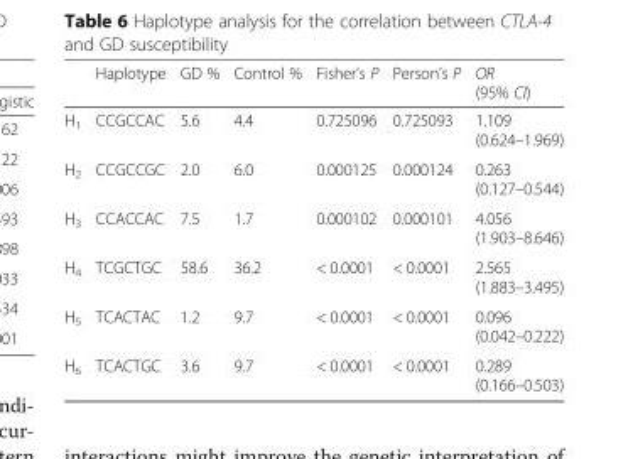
<table><thead><tr><td></td><td>Haplotype</td><td>GD %</td><td>Control %</td><td>Fisher’s P</td><td>Person’s P</td><td>OR (95% CI)</td></tr></thead><tbody><tr><td>H<sub>1</sub></td><td>CCGCCAC</td><td>5.6</td><td>4.4</td><td>0.725096</td><td>0.725093</td><td>1.109 (0.624–1.969)</td></tr><tr><td>H<sub>2</sub></td><td>CCGCCGC</td><td>2.0</td><td>6.0</td><td>0.000125</td><td>0.000124</td><td>0.263 (0.127–0.544)</td></tr><tr><td>H<sub>3</sub></td><td>CCACCAC</td><td>7.5</td><td>1.7</td><td>0.000102</td><td>0.000101</td><td>4.056 (1.903–8.646)</td></tr><tr><td>H<sub>4</sub></td><td>TCGCTGC</td><td>58.6</td><td>36.2</td><td>&lt; 0.0001</td><td>&lt; 0.0001</td><td>2.565 (1.883–3.495)</td></tr><tr><td>H<sub>5</sub></td><td>TCACTAC</td><td>1.2</td><td>9.7</td><td>&lt; 0.0001</td><td>&lt; 0.0001</td><td>0.096 (0.042–0.222)</td></tr><tr><td>H<sub>6</sub></td><td>TCACTGC</td><td>3.6</td><td>9.7</td><td>&lt; 0.0001</td><td>&lt; 0.0001</td><td>0.289 (0.166–0.503)</td></tr></tbody></table>